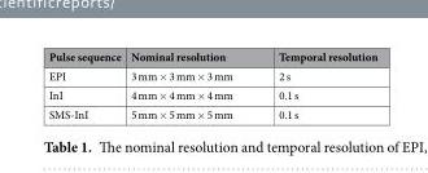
<table><thead><tr><td>Pulse sequence</td><td>Nominal resolution</td><td>Temporal resolution</td></tr></thead><tbody><tr><td>EPI</td><td>3 mm × 3 mm × 3 mm</td><td>2 s</td></tr><tr><td>InI</td><td>4 mm × 4 mm × 4 mm</td><td>0.1 s</td></tr><tr><td>SMS-InI</td><td>5 mm × 5 mm × 5 mm</td><td>0.1 s</td></tr></tbody></table>